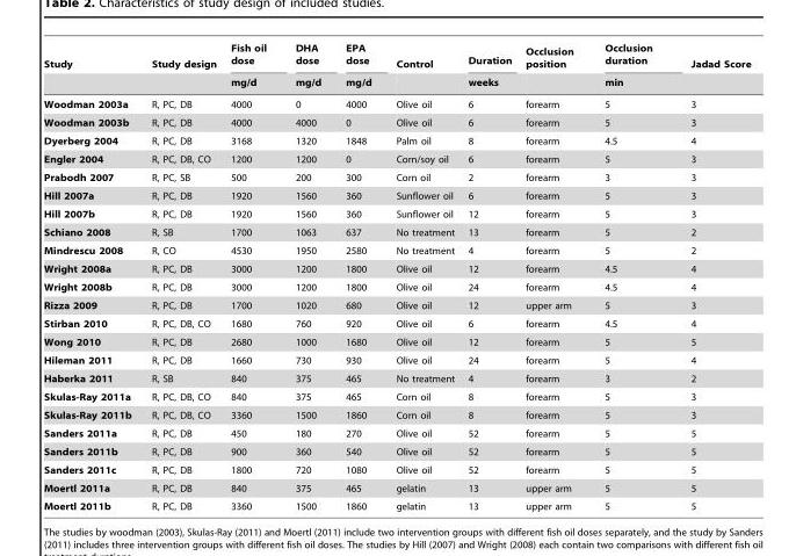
<table><thead><tr><td rowspan="2">Study</td><td rowspan="2">Study design</td><td rowspan="2">Fish oil dose mg/d</td><td rowspan="2">DHA dose mg/d</td><td rowspan="2">EPA dose mg/d</td><td rowspan="2">Control</td><td rowspan="2">Duration weeks</td><td rowspan="2">Occlusion position</td><td rowspan="2">Occlusion duration min</td><td rowspan="2">Jadad Score</td></tr><tr></tr></thead><tbody><tr><td>Woodman 2003a</td><td>R, PC, DB</td><td>4000</td><td>0</td><td>4000</td><td>Olive oil</td><td>6</td><td>forearm</td><td>5</td><td>3</td></tr><tr><td>Woodman 2003b</td><td>R, PC, DB</td><td>4000</td><td>4000</td><td>0</td><td>Olive oil</td><td>6</td><td>forearm</td><td>5</td><td>3</td></tr><tr><td>Dyerberg 2004</td><td>R, PC, DB</td><td>3168</td><td>1320</td><td>1848</td><td>Palm oil</td><td>8</td><td>forearm</td><td>4.5</td><td>4</td></tr><tr><td>Engler 2004</td><td>R, PC, DB, CO</td><td>1200</td><td>1200</td><td>0</td><td>Corn/soy oil</td><td>6</td><td>forearm</td><td>5</td><td>3</td></tr><tr><td>Prabodh 2007</td><td>R, PC, SB</td><td>500</td><td>200</td><td>300</td><td>Corn oil</td><td>2</td><td>forearm</td><td>3</td><td>3</td></tr><tr><td>Hill 2007a</td><td>R, PC, DB</td><td>1920</td><td>1560</td><td>360</td><td>Sunflower oil</td><td>6</td><td>forearm</td><td>5</td><td>3</td></tr><tr><td>Hill 2007b</td><td>R, PC, DB</td><td>1920</td><td>1560</td><td>360</td><td>Sunflower oil</td><td>12</td><td>forearm</td><td>5</td><td>3</td></tr><tr><td>Schiano 2008</td><td>R, SB</td><td>1700</td><td>1063</td><td>637</td><td>No treatment</td><td>13</td><td>forearm</td><td>5</td><td>2</td></tr><tr><td>Mindrescu 2008</td><td>R, CO</td><td>4530</td><td>1950</td><td>2580</td><td>No treatment</td><td>4</td><td>forearm</td><td>5</td><td>2</td></tr><tr><td>Wright 2008a</td><td>R, PC, DB</td><td>3000</td><td>1200</td><td>1800</td><td>Olive oil</td><td>12</td><td>forearm</td><td>4.5</td><td>4</td></tr><tr><td>Wright 2008b</td><td>R, PC, DB</td><td>3000</td><td>1200</td><td>1800</td><td>Olive oil</td><td>24</td><td>forearm</td><td>4.5</td><td>4</td></tr><tr><td>Rizza 2009</td><td>R, PC, DB</td><td>1700</td><td>1020</td><td>680</td><td>Olive oil</td><td>12</td><td>upper arm</td><td>5</td><td>3</td></tr><tr><td>Stirban 2010</td><td>R, PC, DB, CO</td><td>1680</td><td>760</td><td>920</td><td>Olive oil</td><td>6</td><td>forearm</td><td>4.5</td><td>4</td></tr><tr><td>Wong 2010</td><td>R, PC, DB</td><td>2680</td><td>1000</td><td>1680</td><td>Olive oil</td><td>12</td><td>forearm</td><td>5</td><td>5</td></tr><tr><td>Hileman 2011</td><td>R, PC, DB</td><td>1660</td><td>730</td><td>930</td><td>Olive oil</td><td>24</td><td>forearm</td><td>5</td><td>4</td></tr><tr><td>Haberka 2011</td><td>R, SB</td><td>840</td><td>375</td><td>465</td><td>No treatment</td><td>4</td><td>forearm</td><td>3</td><td>2</td></tr><tr><td>Skulas-Ray 2011a</td><td>R, PC, DB, CO</td><td>840</td><td>375</td><td>465</td><td>Corn oil</td><td>8</td><td>forearm</td><td>5</td><td>3</td></tr><tr><td>Skulas-Ray 2011b</td><td>R, PC, DB, CO</td><td>3360</td><td>1500</td><td>1860</td><td>Corn oil</td><td>8</td><td>forearm</td><td>5</td><td>3</td></tr><tr><td>Sanders 2011a</td><td>R, PC, DB</td><td>450</td><td>180</td><td>270</td><td>Olive oil</td><td>52</td><td>forearm</td><td>5</td><td>5</td></tr><tr><td>Sanders 2011b</td><td>R, PC, DB</td><td>900</td><td>360</td><td>540</td><td>Olive oil</td><td>52</td><td>forearm</td><td>5</td><td>5</td></tr><tr><td>Sanders 2011c</td><td>R, PC, DB</td><td>1800</td><td>720</td><td>1080</td><td>Olive oil</td><td>52</td><td>forearm</td><td>5</td><td>5</td></tr><tr><td>Moertl 2011a</td><td>R, PC, DB</td><td>840</td><td>375</td><td>465</td><td>gelatin</td><td>13</td><td>upper arm</td><td>5</td><td>5</td></tr><tr><td>Moertl 2011b</td><td>R, PC, DB</td><td>3360</td><td>1500</td><td>1860</td><td>gelatin</td><td>13</td><td>upper arm</td><td>5</td><td>5</td></tr></tbody></table>